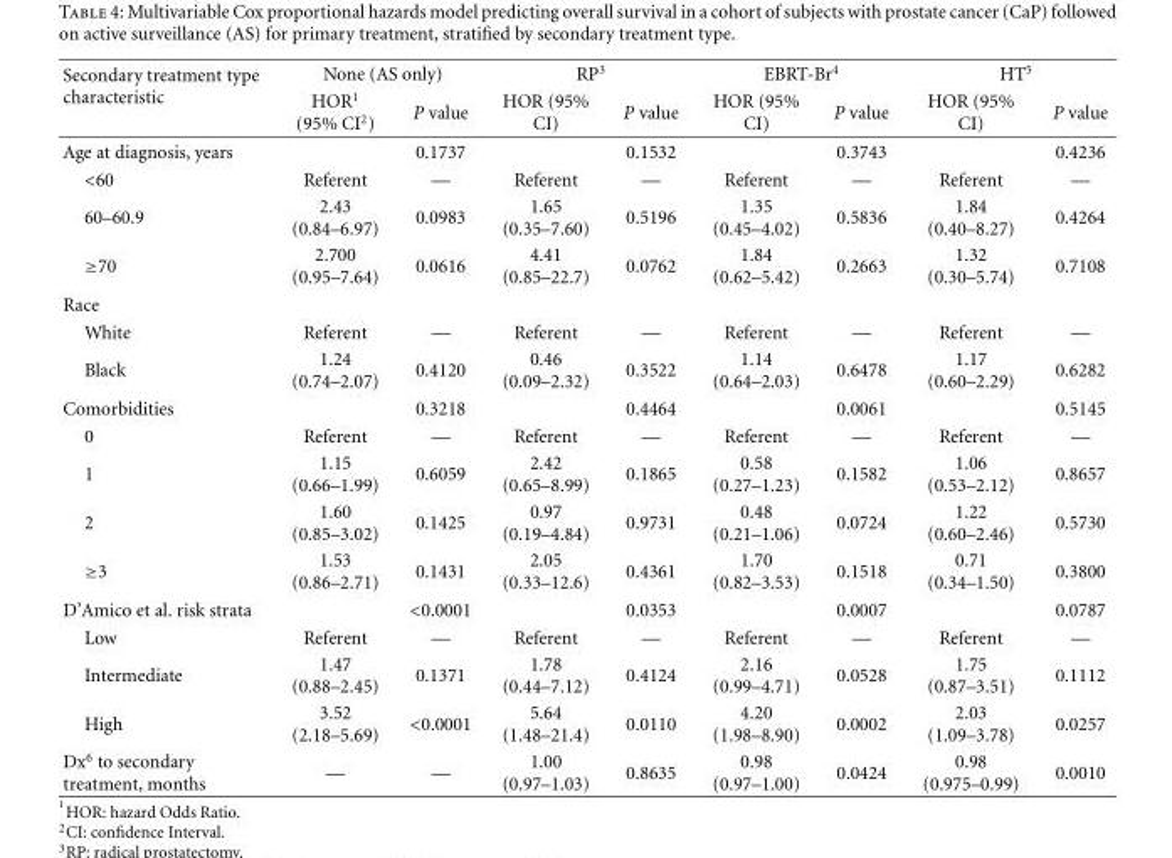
<table><thead><tr><td rowspan="2">Secondary treatment type characteristic</td><td colspan="2">None (AS only)</td><td colspan="2">RP<sup>3</sup></td><td colspan="2">EBRT-Br<sup>4</sup></td><td colspan="2">HT<sup>5</sup></td></tr><tr><td>HOR<sup>1</sup> (95% CI<sup>2</sup>)</td><td>P value</td><td>HOR (95% CI)</td><td>P value</td><td>HOR (95% CI)</td><td>P value</td><td>HOR (95% CI)</td><td>P value</td></tr></thead><tbody><tr><td>Age at diagnosis, years</td><td></td><td>0.1737</td><td></td><td>0.1532</td><td></td><td>0.3743</td><td></td><td>0.4236</td></tr><tr><td>&lt;60</td><td>Referent</td><td>—</td><td>Referent</td><td>—</td><td>Referent</td><td>—</td><td>Referent</td><td>—</td></tr><tr><td>60–60.9</td><td>2.43 (0.84–6.97)</td><td>0.0983</td><td>1.65 (0.35–7.60)</td><td>0.5196</td><td>1.35 (0.45–4.02)</td><td>0.5836</td><td>1.84 (0.40–8.27)</td><td>0.4264</td></tr><tr><td>≥70</td><td>2.700 (0.95–7.64)</td><td>0.0616</td><td>4.41 (0.85–22.7)</td><td>0.0762</td><td>1.84 (0.62–5.42)</td><td>0.2663</td><td>1.32 (0.30–5.74)</td><td>0.7108</td></tr><tr><td colspan="9">Race</td></tr><tr><td>White</td><td>Referent</td><td>—</td><td>Referent</td><td>—</td><td>Referent</td><td>—</td><td>Referent</td><td>—</td></tr><tr><td>Black</td><td>1.24 (0.74–2.07)</td><td>0.4120</td><td>0.46 (0.09–2.32)</td><td>0.3522</td><td>1.14 (0.64–2.03)</td><td>0.6478</td><td>1.17 (0.60–2.29)</td><td>0.6282</td></tr><tr><td>Comorbidities</td><td></td><td>0.3218</td><td></td><td>0.4464</td><td></td><td>0.0061</td><td></td><td>0.5145</td></tr><tr><td>0</td><td>Referent</td><td>—</td><td>Referent</td><td>—</td><td>Referent</td><td>—</td><td>Referent</td><td>—</td></tr><tr><td>1</td><td>1.15 (0.66–1.99)</td><td>0.6059</td><td>2.42 (0.65–8.99)</td><td>0.1865</td><td>0.58 (0.27–1.23)</td><td>0.1582</td><td>1.06 (0.53–2.12)</td><td>0.8657</td></tr><tr><td>2</td><td>1.60 (0.85–3.02)</td><td>0.1425</td><td>0.97 (0.19–4.84)</td><td>0.9731</td><td>0.48 (0.21–1.06)</td><td>0.0724</td><td>1.22 (0.60–2.46)</td><td>0.5730</td></tr><tr><td>≥3</td><td>1.53 (0.86–2.71)</td><td>0.1431</td><td>2.05 (0.33–12.6)</td><td>0.4361</td><td>1.70 (0.82–3.53)</td><td>0.1518</td><td>0.71 (0.34–1.50)</td><td>0.3800</td></tr><tr><td>D’Amico et al. risk strata</td><td></td><td>&lt;0.0001</td><td></td><td>0.0353</td><td></td><td>0.0007</td><td></td><td>0.0787</td></tr><tr><td>Low</td><td>Referent</td><td>—</td><td>Referent</td><td>—</td><td>Referent</td><td>—</td><td>Referent</td><td>—</td></tr><tr><td>Intermediate</td><td>1.47 (0.88–2.45)</td><td>0.1371</td><td>1.78 (0.44–7.12)</td><td>0.4124</td><td>2.16 (0.99–4.71)</td><td>0.0528</td><td>1.75 (0.87–3.51)</td><td>0.1112</td></tr><tr><td>High</td><td>3.52 (2.18–5.69)</td><td>&lt;0.0001</td><td>5.64 (1.48–21.4)</td><td>0.0110</td><td>4.20 (1.98–8.90)</td><td>0.0002</td><td>2.03 (1.09–3.78)</td><td>0.0257</td></tr><tr><td>Dx<sup>6</sup> to secondary treatment, months</td><td>—</td><td>—</td><td>1.00 (0.97–1.03)</td><td>0.8635</td><td>0.98 (0.97–1.00)</td><td>0.0424</td><td>0.98 (0.975–0.99)</td><td>0.0010</td></tr></tbody></table>